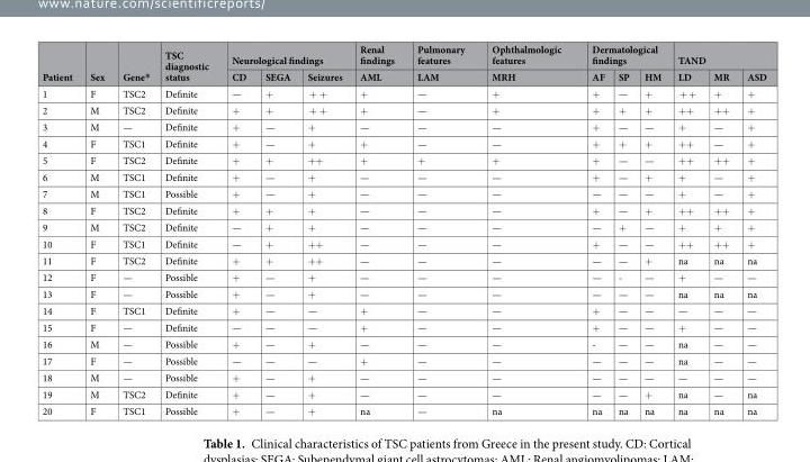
<table><thead><tr><td rowspan="2">Patient</td><td rowspan="2">Sex</td><td rowspan="2">Gene*</td><td rowspan="2">TSC diagnostic status</td><td colspan="3">Neurological findings</td><td rowspan="2">Renal findings AML</td><td rowspan="2">Pulmonary features LAM</td><td rowspan="2">Ophthalmologic features MRH</td><td colspan="3">Dermatological findings</td><td colspan="3">TAND</td></tr><tr><td>CD</td><td>SEGA</td><td>Seizures</td><td>AF</td><td>SP</td><td>HM</td><td>LD</td><td>MR</td><td>ASD</td></tr></thead><tbody><tr><td>1</td><td>F</td><td>TSC2</td><td>Definite</td><td>—</td><td>+</td><td>+ +</td><td>+</td><td>—</td><td>+</td><td>+</td><td>—</td><td>+</td><td>+ +</td><td>+</td><td>+</td></tr><tr><td>2</td><td>M</td><td>TSC2</td><td>Definite</td><td>+</td><td>+</td><td>+ +</td><td>+</td><td>—</td><td>+</td><td>+</td><td>+</td><td>+</td><td>++</td><td>++</td><td>+</td></tr><tr><td>3</td><td>M</td><td>—</td><td>Definite</td><td>+</td><td>—</td><td>+</td><td>—</td><td>—</td><td>—</td><td>+</td><td>—</td><td>—</td><td>+</td><td>—</td><td>+</td></tr><tr><td>4</td><td>F</td><td>TSC1</td><td>Definite</td><td>+</td><td>—</td><td>+</td><td>+</td><td>—</td><td>—</td><td>+</td><td>+</td><td>+</td><td>++</td><td>—</td><td>+</td></tr><tr><td>5</td><td>F</td><td>TSC2</td><td>Definite</td><td>+</td><td>+</td><td>++</td><td>+</td><td>+</td><td>+</td><td>+</td><td>—</td><td>—</td><td>++</td><td>++</td><td>+</td></tr><tr><td>6</td><td>M</td><td>TSC1</td><td>Definite</td><td>+</td><td>—</td><td>+</td><td>—</td><td>—</td><td>—</td><td>+</td><td>—</td><td>+</td><td>+</td><td>—</td><td>+</td></tr><tr><td>7</td><td>M</td><td>TSC1</td><td>Possible</td><td>+</td><td>—</td><td>+</td><td>—</td><td>—</td><td>—</td><td>—</td><td>—</td><td>—</td><td>+</td><td>—</td><td>+</td></tr><tr><td>8</td><td>F</td><td>TSC2</td><td>Definite</td><td>+</td><td>+</td><td>+</td><td>—</td><td>—</td><td>—</td><td>+</td><td>—</td><td>+</td><td>++</td><td>++</td><td>+</td></tr><tr><td>9</td><td>M</td><td>TSC2</td><td>Definite</td><td>—</td><td>+</td><td>+</td><td>—</td><td>—</td><td>—</td><td>—</td><td>+</td><td>—</td><td>+</td><td>+</td><td>+</td></tr><tr><td>10</td><td>F</td><td>TSC1</td><td>Definite</td><td>—</td><td>+</td><td>++</td><td>—</td><td>—</td><td>—</td><td>+</td><td>—</td><td>—</td><td>++</td><td>++</td><td>+</td></tr><tr><td>11</td><td>F</td><td>TSC2</td><td>Definite</td><td>+</td><td>+</td><td>++</td><td>—</td><td>—</td><td>—</td><td>—</td><td>—</td><td>+</td><td>na</td><td>na</td><td>na</td></tr><tr><td>12</td><td>F</td><td>—</td><td>Possible</td><td>+</td><td>—</td><td>+</td><td>—</td><td>—</td><td>—</td><td>—</td><td>-</td><td>—</td><td>+</td><td>—</td><td>—</td></tr><tr><td>13</td><td>F</td><td>—</td><td>Possible</td><td>+</td><td>—</td><td>+</td><td>—</td><td>—</td><td>—</td><td>—</td><td>—</td><td>—</td><td>na</td><td>na</td><td>na</td></tr><tr><td>14</td><td>F</td><td>TSC1</td><td>Definite</td><td>+</td><td>—</td><td>—</td><td>+</td><td>—</td><td>—</td><td>+</td><td>—</td><td>—</td><td>—</td><td>—</td><td>—</td></tr><tr><td>15</td><td>F</td><td>—</td><td>Definite</td><td>—</td><td>—</td><td>—</td><td>+</td><td>—</td><td>—</td><td>+</td><td>—</td><td>—</td><td>+</td><td>—</td><td>—</td></tr><tr><td>16</td><td>M</td><td>—</td><td>Possible</td><td>+</td><td>—</td><td>+</td><td>—</td><td>—</td><td>—</td><td>-</td><td>—</td><td>—</td><td>na</td><td>—</td><td>—</td></tr><tr><td>17</td><td>F</td><td>—</td><td>Possible</td><td>—</td><td>—</td><td>—</td><td>+</td><td>—</td><td>—</td><td>—</td><td>—</td><td>—</td><td>na</td><td>—</td><td>—</td></tr><tr><td>18</td><td>M</td><td>—</td><td>Possible</td><td>+</td><td>—</td><td>+</td><td>—</td><td>—</td><td>—</td><td>—</td><td>—</td><td>—</td><td>—</td><td>—</td><td>—</td></tr><tr><td>19</td><td>M</td><td>TSC2</td><td>Definite</td><td>+</td><td>—</td><td>+</td><td>—</td><td>—</td><td>—</td><td>—</td><td>—</td><td>+</td><td>na</td><td>—</td><td>na</td></tr><tr><td>20</td><td>F</td><td>TSC1</td><td>Possible</td><td>+</td><td>—</td><td>+</td><td>na</td><td>—</td><td>na</td><td>na</td><td>na</td><td>na</td><td>na</td><td>na</td><td>na</td></tr></tbody></table>